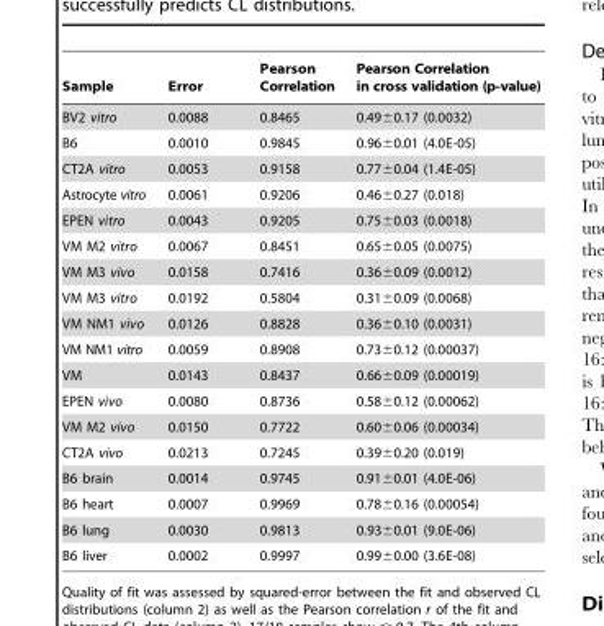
<table><thead><tr><td>Sample</td><td>Error</td><td>Pearson Correlation</td><td>Pearson Correlation in cross validation (p-value)</td></tr></thead><tbody><tr><td>BV2 vitro</td><td>0.0088</td><td>0.8465</td><td>0.49±0.17 (0.0032)</td></tr><tr><td>B6</td><td>0.0010</td><td>0.9845</td><td>0.96±0.01 (4.0E-05)</td></tr><tr><td>CT2A vitro</td><td>0.0053</td><td>0.9158</td><td>0.77±0.04 (1.4E-05)</td></tr><tr><td>Astrocyte vitro</td><td>0.0061</td><td>0.9206</td><td>0.46±0.27 (0.018)</td></tr><tr><td>EPEN vitro</td><td>0.0043</td><td>0.9205</td><td>0.75±0.03 (0.0018)</td></tr><tr><td>VM M2 vitro</td><td>0.0067</td><td>0.8451</td><td>0.65±0.05 (0.0075)</td></tr><tr><td>VM M3 vivo</td><td>0.0158</td><td>0.7416</td><td>0.36±0.09 (0.0012)</td></tr><tr><td>VM M3 vitro</td><td>0.0192</td><td>0.5804</td><td>0.31±0.09 (0.0068)</td></tr><tr><td>VM NM1 vivo</td><td>0.0126</td><td>0.8828</td><td>0.36±0.10 (0.0031)</td></tr><tr><td>VM NM1 vitro</td><td>0.0059</td><td>0.8908</td><td>0.73±0.12 (0.00037)</td></tr><tr><td>VM</td><td>0.0143</td><td>0.8437</td><td>0.66±0.09 (0.00019)</td></tr><tr><td>EPEN vivo</td><td>0.0080</td><td>0.8736</td><td>0.58±0.12 (0.00062)</td></tr><tr><td>VM M2 vivo</td><td>0.0150</td><td>0.7722</td><td>0.60±0.06 (0.00034)</td></tr><tr><td>CT2A vivo</td><td>0.0213</td><td>0.7245</td><td>0.39±0.20 (0.019)</td></tr><tr><td>B6 brain</td><td>0.0014</td><td>0.9745</td><td>0.91±0.01 (4.0E-06)</td></tr><tr><td>B6 heart</td><td>0.0007</td><td>0.9969</td><td>0.78±0.16 (0.00054)</td></tr><tr><td>B6 lung</td><td>0.0030</td><td>0.9813</td><td>0.93±0.01 (9.0E-06)</td></tr><tr><td>B6 liver</td><td>0.0002</td><td>0.9997</td><td>0.99±0.00 (3.6E-08)</td></tr></tbody></table>